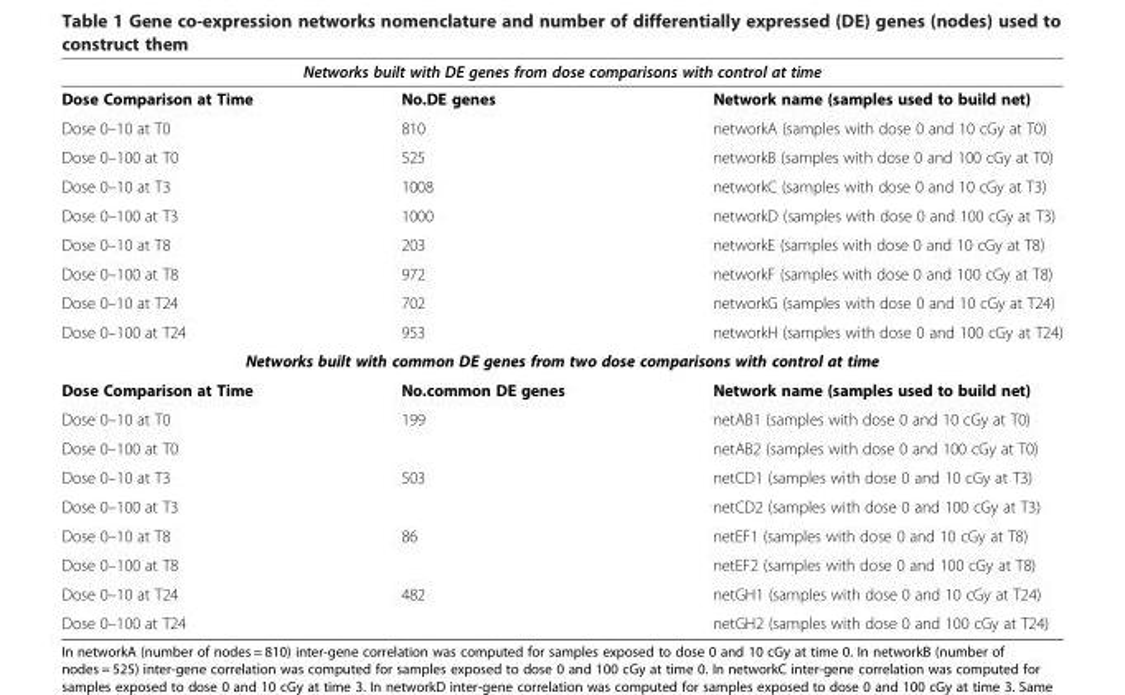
<table><thead><tr><td colspan="3">Networks built with DE genes from dose comparisons with control at time</td></tr><tr><td>Dose Comparison at Time</td><td>No.DE genes</td><td>Network name (samples used to build net)</td></tr></thead><tbody><tr><td>Dose 0–10 at T0</td><td>810</td><td>networkA (samples with dose 0 and 10 cGy at T0)</td></tr><tr><td>Dose 0–100 at T0</td><td>525</td><td>networkB (samples with dose 0 and 100 cGy at T0)</td></tr><tr><td>Dose 0–10 at T3</td><td>1008</td><td>networkC (samples with dose 0 and 10 cGy at T3)</td></tr><tr><td>Dose 0–100 at T3</td><td>1000</td><td>networkD (samples with dose 0 and 100 cGy at T3)</td></tr><tr><td>Dose 0–10 at T8</td><td>203</td><td>networkE (samples with dose 0 and 10 cGy at T8)</td></tr><tr><td>Dose 0–100 at T8</td><td>972</td><td>networkF (samples with dose 0 and 100 cGy at T8)</td></tr><tr><td>Dose 0–10 at T24</td><td>702</td><td>networkG (samples with dose 0 and 10 cGy at T24)</td></tr><tr><td>Dose 0–100 at T24</td><td>953</td><td>networkH (samples with dose 0 and 100 cGy at T24)</td></tr><tr><td colspan="3">Networks built with common DE genes from two dose comparisons with control at time</td></tr><tr><td>Dose Comparison at Time</td><td>No.common DE genes</td><td>Network name (samples used to build net)</td></tr><tr><td>Dose 0–10 at T0</td><td>199</td><td>netAB1 (samples with dose 0 and 10 cGy at T0)</td></tr><tr><td>Dose 0–100 at T0</td><td></td><td>netAB2 (samples with dose 0 and 100 cGy at T0)</td></tr><tr><td>Dose 0–10 at T3</td><td>503</td><td>netCD1 (samples with dose 0 and 10 cGy at T3)</td></tr><tr><td>Dose 0–100 at T3</td><td></td><td>netCD2 (samples with dose 0 and 100 cGy at T3)</td></tr><tr><td>Dose 0–10 at T8</td><td>86</td><td>netEF1 (samples with dose 0 and 10 cGy at T8)</td></tr><tr><td>Dose 0–100 at T8</td><td></td><td>netEF2 (samples with dose 0 and 100 cGy at T8)</td></tr><tr><td>Dose 0–10 at T24</td><td>482</td><td>netGH1 (samples with dose 0 and 10 cGy at T24)</td></tr><tr><td>Dose 0–100 at T24</td><td></td><td>netGH2 (samples with dose 0 and 100 cGy at T24)</td></tr></tbody></table>